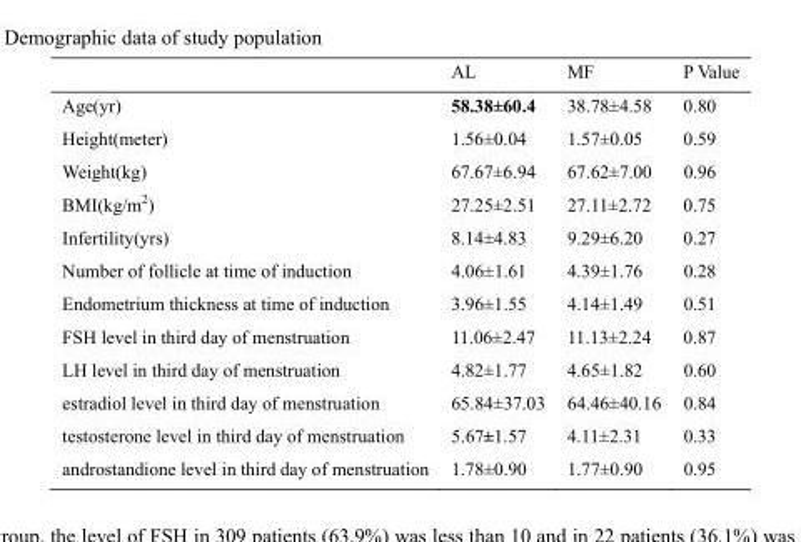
<table><thead><tr><td></td><td>AL</td><td>MF</td><td>P Value</td></tr></thead><tbody><tr><td>Age(yr)</td><td>60.4 ± 58.38</td><td>38.78±4.58</td><td>0.80</td></tr><tr><td>Height(meter)</td><td>1.56±0.04</td><td>1.57±0.05</td><td>0.59</td></tr><tr><td>Weight(kg)</td><td>67.67±6.94</td><td>67.62±7.00</td><td>0.96</td></tr><tr><td>BMI(kg/m<sup>2</sup>)</td><td>27.25±2.51</td><td>27.11±2.72</td><td>0.75</td></tr><tr><td>Infertility(yrs)</td><td>8.14±4.83</td><td>9.29±6.20</td><td>0.27</td></tr><tr><td>Number of follicle at time of induction</td><td>4.06±1.61</td><td>4.39±1.76</td><td>0.28</td></tr><tr><td>Endometrium thickness at time of induction</td><td>3.96±1.55</td><td>4.14±1.49</td><td>0.51</td></tr><tr><td>FSH level in third day of menstruation</td><td>11.06±2.47</td><td>11.13±2.24</td><td>0.87</td></tr><tr><td>LH level in third day of menstruation</td><td>4.82±1.77</td><td>4.65±1.82</td><td>0.60</td></tr><tr><td>estradiol level in third day of menstruation</td><td>65.84±37.03</td><td>64.46±40.16</td><td>0.84</td></tr><tr><td>testosterone level in third day of menstruation</td><td>5.67±1.57</td><td>4.11±2.31</td><td>0.33</td></tr><tr><td>androstandione level in third day of menstruation</td><td>1.78±0.90</td><td>1.77±0.90</td><td>0.95</td></tr></tbody></table>